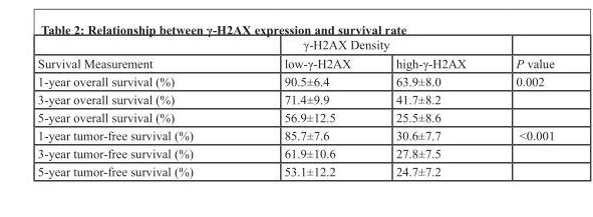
<table><thead><tr><td rowspan="2">Survival Measurement</td><td colspan="2">γ-H2AX Density</td><td rowspan="2">P value</td></tr><tr><td>low-γ-H2AX</td><td>high-γ-H2AX</td></tr></thead><tbody><tr><td>1-year overall survival (%)</td><td>90.5±6.4</td><td>63.9±8.0</td><td>0.002</td></tr><tr><td>3-year overall survival (%)</td><td>71.4±9.9</td><td>41.7±8.2</td><td></td></tr><tr><td>5-year overall survival (%)</td><td>56.9±12.5</td><td>25.5±8.6</td><td></td></tr><tr><td>1-year tumor-free survival (%)</td><td>85.7±7.6</td><td>30.6±7.7</td><td>&lt;0.001</td></tr><tr><td>3-year tumor-free survival (%)</td><td>61.9±10.6</td><td>27.8±7.5</td><td></td></tr><tr><td>5-year tumor-free survival (%)</td><td>53.1±12.2</td><td>24.7±7.2</td><td></td></tr></tbody></table>